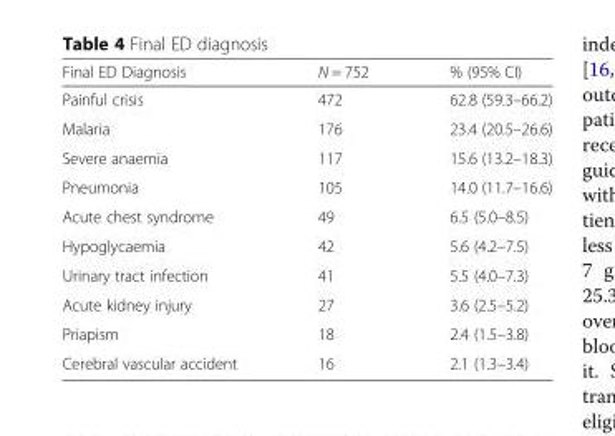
<table><thead><tr><td>Final ED Diagnosis</td><td>N = 752</td><td>% (95% CI)</td></tr></thead><tbody><tr><td>Painful crisis</td><td>472</td><td>62.8 (59.3–66.2)</td></tr><tr><td>Malaria</td><td>176</td><td>23.4 (20.5–26.6)</td></tr><tr><td>Severe anaemia</td><td>117</td><td>15.6 (13.2–18.3)</td></tr><tr><td>Pneumonia</td><td>105</td><td>14.0 (11.7–16.6)</td></tr><tr><td>Acute chest syndrome</td><td>49</td><td>6.5 (5.0–8.5)</td></tr><tr><td>Hypoglycaemia</td><td>42</td><td>5.6 (4.2–7.5)</td></tr><tr><td>Urinary tract infection</td><td>41</td><td>5.5 (4.0–7.3)</td></tr><tr><td>Acute kidney injury</td><td>27</td><td>3.6 (2.5–5.2)</td></tr><tr><td>Priapism</td><td>18</td><td>2.4 (1.5–3.8)</td></tr><tr><td>Cerebral vascular accident</td><td>16</td><td>2.1 (1.3–3.4)</td></tr></tbody></table>